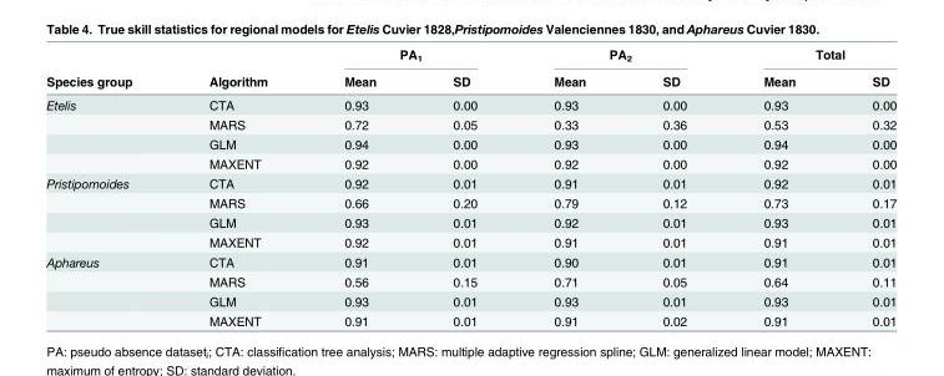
<table><thead><tr><td rowspan="2">Species group</td><td rowspan="2">Algorithm</td><td colspan="2">PA<sub>1</sub></td><td colspan="2">PA<sub>2</sub></td><td colspan="2">Total</td></tr><tr><td>Mean</td><td>SD</td><td>Mean</td><td>SD</td><td>Mean</td><td>SD</td></tr></thead><tbody><tr><td rowspan="4">Etelis</td><td>CTA</td><td>0.93</td><td>0.00</td><td>0.93</td><td>0.00</td><td>0.93</td><td>0.00</td></tr><tr><td>MARS</td><td>0.72</td><td>0.05</td><td>0.33</td><td>0.36</td><td>0.53</td><td>0.32</td></tr><tr><td>GLM</td><td>0.94</td><td>0.00</td><td>0.93</td><td>0.00</td><td>0.94</td><td>0.00</td></tr><tr><td>MAXENT</td><td>0.92</td><td>0.00</td><td>0.92</td><td>0.00</td><td>0.92</td><td>0.00</td></tr><tr><td rowspan="4">Pristipomoides</td><td>CTA</td><td>0.92</td><td>0.01</td><td>0.91</td><td>0.01</td><td>0.92</td><td>0.01</td></tr><tr><td>MARS</td><td>0.66</td><td>0.20</td><td>0.79</td><td>0.12</td><td>0.73</td><td>0.17</td></tr><tr><td>GLM</td><td>0.93</td><td>0.01</td><td>0.92</td><td>0.01</td><td>0.93</td><td>0.01</td></tr><tr><td>MAXENT</td><td>0.92</td><td>0.01</td><td>0.91</td><td>0.01</td><td>0.91</td><td>0.01</td></tr><tr><td rowspan="4">Aphareus</td><td>CTA</td><td>0.91</td><td>0.01</td><td>0.90</td><td>0.01</td><td>0.91</td><td>0.01</td></tr><tr><td>MARS</td><td>0.56</td><td>0.15</td><td>0.71</td><td>0.05</td><td>0.64</td><td>0.11</td></tr><tr><td>GLM</td><td>0.93</td><td>0.01</td><td>0.93</td><td>0.01</td><td>0.93</td><td>0.01</td></tr><tr><td>MAXENT</td><td>0.91</td><td>0.01</td><td>0.91</td><td>0.02</td><td>0.91</td><td>0.01</td></tr></tbody></table>